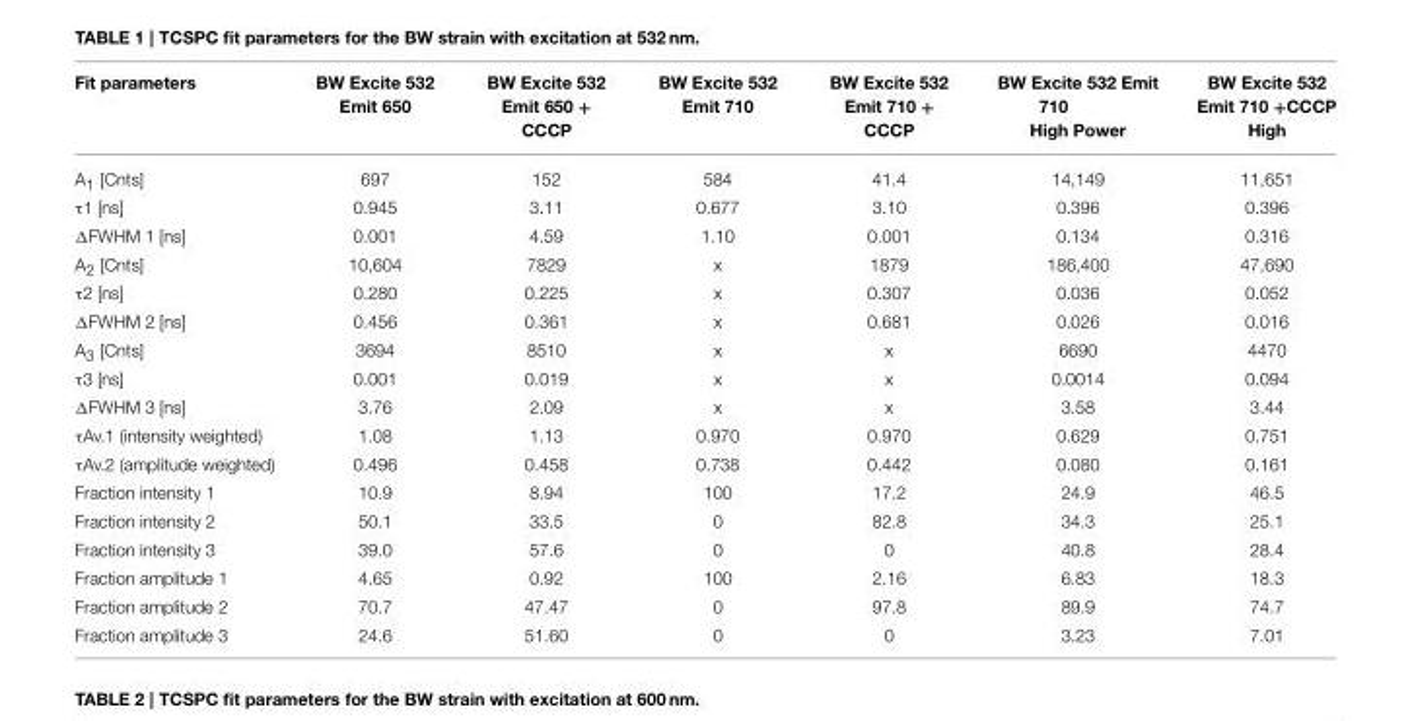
<table><thead><tr><td>Fit parameters</td><td>BW Excite 532 Emit 650</td><td>BW Excite 532 Emit 650 + CCCP</td><td>BW Excite 532 Emit 710</td><td>BW Excite 532 Emit 710 + CCCP</td><td>BW Excite 532 Emit 710 High Power</td><td>BW Excite 532 Emit 710 +CCCP High</td></tr></thead><tbody><tr><td>A<sub>1</sub> [Cnts]</td><td>697</td><td>152</td><td>584</td><td>41.4</td><td>14,149</td><td>11,651</td></tr><tr><td>τ1 [ns]</td><td>0.945</td><td>3.11</td><td>0.677</td><td>3.10</td><td>0.396</td><td>0.396</td></tr><tr><td>ΔFWHM 1 [ns]</td><td>0.001</td><td>4.59</td><td>1.10</td><td>0.001</td><td>0.134</td><td>0.316</td></tr><tr><td>A<sub>2</sub> [Cnts]</td><td>10,604</td><td>7829</td><td>x</td><td>1879</td><td>186,400</td><td>47,690</td></tr><tr><td>τ2 [ns]</td><td>0.280</td><td>0.225</td><td>x</td><td>0.307</td><td>0.036</td><td>0.052</td></tr><tr><td>ΔFWHM 2 [ns]</td><td>0.456</td><td>0.361</td><td>x</td><td>0.681</td><td>0.026</td><td>0.016</td></tr><tr><td>A<sub>3</sub> [Cnts]</td><td>3694</td><td>8510</td><td>x</td><td>x</td><td>6690</td><td>4470</td></tr><tr><td>τ3 [ns]</td><td>0.001</td><td>0.019</td><td>x</td><td>x</td><td>0.0014</td><td>0.094</td></tr><tr><td>ΔFWHM 3 [ns]</td><td>3.76</td><td>2.09</td><td>x</td><td>x</td><td>3.58</td><td>3.44</td></tr><tr><td>τAv.1 (intensity weighted)</td><td>1.08</td><td>1.13</td><td>0.970</td><td>0.970</td><td>0.629</td><td>0.751</td></tr><tr><td>τAv.2 (amplitude weighted)</td><td>0.496</td><td>0.458</td><td>0.738</td><td>0.442</td><td>0.080</td><td>0.161</td></tr><tr><td>Fraction intensity 1</td><td>10.9</td><td>8.94</td><td>100</td><td>17.2</td><td>24.9</td><td>46.5</td></tr><tr><td>Fraction intensity 2</td><td>50.1</td><td>33.5</td><td>0</td><td>82.8</td><td>34.3</td><td>25.1</td></tr><tr><td>Fraction intensity 3</td><td>39.0</td><td>57.6</td><td>0</td><td>0</td><td>40.8</td><td>28.4</td></tr><tr><td>Fraction amplitude 1</td><td>4.65</td><td>0.92</td><td>100</td><td>2.16</td><td>6.83</td><td>18.3</td></tr><tr><td>Fraction amplitude 2</td><td>70.7</td><td>47.47</td><td>0</td><td>97.8</td><td>89.9</td><td>74.7</td></tr><tr><td>Fraction amplitude 3</td><td>24.6</td><td>51.60</td><td>0</td><td>0</td><td>3.23</td><td>7.01</td></tr></tbody></table>